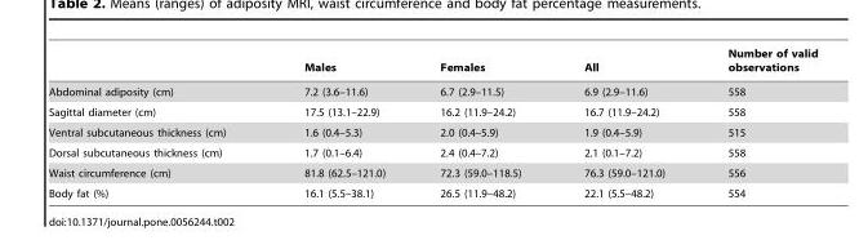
<table><thead><tr><td></td><td>Males</td><td>Females</td><td>All</td><td>Number of valid observations</td></tr></thead><tbody><tr><td>Abdominal adiposity (cm)</td><td>7.2 (3.6–11.6)</td><td>6.7 (2.9–11.5)</td><td>6.9 (2.9–11.6)</td><td>558</td></tr><tr><td>Sagittal diameter (cm)</td><td>17.5 (13.1–22.9)</td><td>16.2 (11.9–24.2)</td><td>16.7 (11.9–24.2)</td><td>558</td></tr><tr><td>Ventral subcutaneous thickness (cm)</td><td>1.6 (0.4–5.3)</td><td>2.0 (0.4–5.9)</td><td>1.9 (0.4–5.9)</td><td>515</td></tr><tr><td>Dorsal subcutaneous thickness (cm)</td><td>1.7 (0.1–6.4)</td><td>2.4 (0.4–7.2)</td><td>2.1 (0.1–7.2)</td><td>558</td></tr><tr><td>Waist circumference (cm)</td><td>81.8 (62.5–121.0)</td><td>72.3 (59.0–118.5)</td><td>76.3 (59.0–121.0)</td><td>556</td></tr><tr><td>Body fat (%)</td><td>16.1 (5.5–38.1)</td><td>26.5 (11.9–48.2)</td><td>22.1 (5.5–48.2)</td><td>554</td></tr></tbody></table>